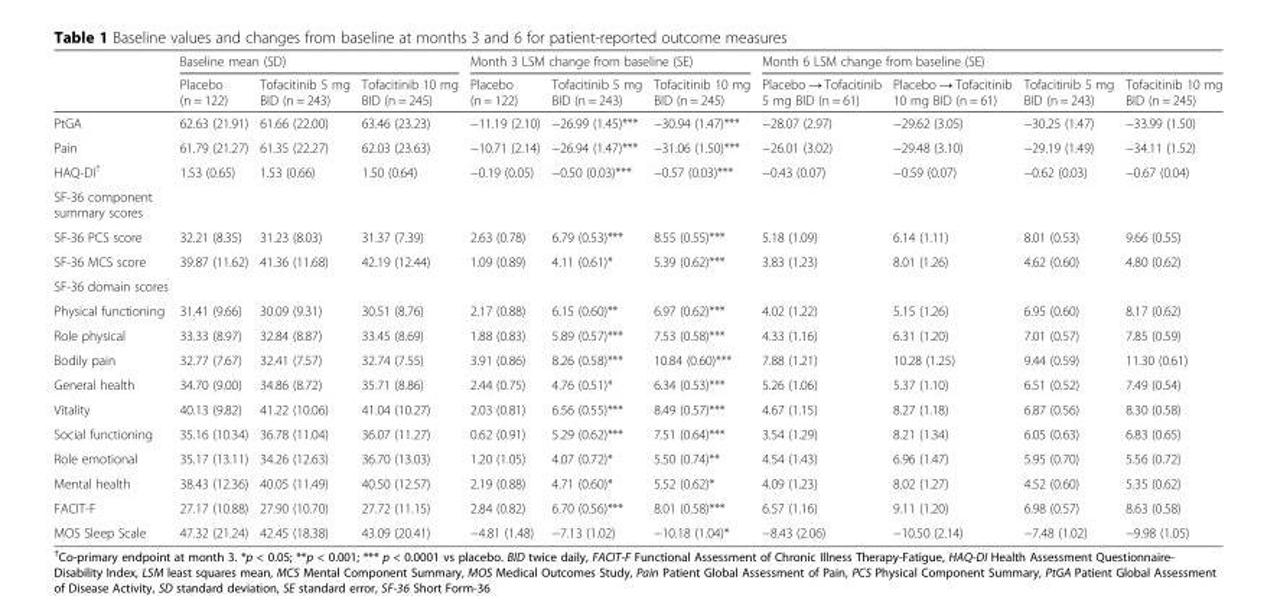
<table><thead><tr><td rowspan="2"></td><td colspan="3">Baseline mean (SD)</td><td colspan="3">Month 3 LSM change from baseline (SE)</td><td colspan="4">Month 6 LSM change from baseline (SE)</td></tr><tr><td>Placebo (n = 122)</td><td>Tofacitinib 5 mg BID (n = 243)</td><td>Tofacitinib 10 mg BID (n = 245)</td><td>Placebo (n = 122)</td><td>Tofacitinib 5 mg BID (n = 243)</td><td>Tofacitinib 10 mg BID (n = 245)</td><td>Placebo → Tofacitinib 5 mg BID (n = 61)</td><td>Placebo → Tofacitinib 10 mg BID (n = 61)</td><td>Tofacitinib 5 mg BID (n = 243)</td><td>Tofacitinib 10 mg BID (n = 245)</td></tr></thead><tbody><tr><td>PtGA</td><td>62.63 (21.91)</td><td>61.66 (22.00)</td><td>63.46 (23.23)</td><td>−11.19 (2.10)</td><td>−26.99 (1.45)***</td><td>−30.94 (1.47)***</td><td>−28.07 (2.97)</td><td>−29.62 (3.05)</td><td>−30.25 (1.47)</td><td>−33.99 (1.50)</td></tr><tr><td>Pain</td><td>61.79 (21.27)</td><td>61.35 (22.27)</td><td>62.03 (23.63)</td><td>−10.71 (2.14)</td><td>−26.94 (1.47)***</td><td>−31.06 (1.50)***</td><td>−26.01 (3.02)</td><td>−29.48 (3.10)</td><td>−29.19 (1.49)</td><td>−34.11 (1.52)</td></tr><tr><td>HAQ-DI<sup>†</sup></td><td>1.53 (0.65)</td><td>1.53 (0.66)</td><td>1.50 (0.64)</td><td>−0.19 (0.05)</td><td>−0.50 (0.03)***</td><td>−0.57 (0.03)***</td><td>−0.43 (0.07)</td><td>−0.59 (0.07)</td><td>−0.62 (0.03)</td><td>−0.67 (0.04)</td></tr><tr><td colspan="11">SF-36 component summary scores</td></tr><tr><td>SF-36 PCS score</td><td>32.21 (8.35)</td><td>31.23 (8.03)</td><td>31.37 (7.39)</td><td>2.63 (0.78)</td><td>6.79 (0.53)***</td><td>8.55 (0.55)***</td><td>5.18 (1.09)</td><td>6.14 (1.11)</td><td>8.01 (0.53)</td><td>9.66 (0.55)</td></tr><tr><td>SF-36 MCS score</td><td>39.87 (11.62)</td><td>41.36 (11.68)</td><td>42.19 (12.44)</td><td>1.09 (0.89)</td><td>4.11 (0.61)*</td><td>5.39 (0.62)***</td><td>3.83 (1.23)</td><td>8.01 (1.26)</td><td>4.62 (0.60)</td><td>4.80 (0.62)</td></tr><tr><td colspan="11">SF-36 domain scores</td></tr><tr><td>Physical functioning</td><td>31.41 (9.66)</td><td>30.09 (9.31)</td><td>30.51 (8.76)</td><td>2.17 (0.88)</td><td>6.15 (0.60)**</td><td>6.97 (0.62)***</td><td>4.02 (1.22)</td><td>5.15 (1.26)</td><td>6.95 (0.60)</td><td>8.17 (0.62)</td></tr><tr><td>Role physical</td><td>33.33 (8.97)</td><td>32.84 (8.87)</td><td>33.45 (8.69)</td><td>1.88 (0.83)</td><td>5.89 (0.57)***</td><td>7.53 (0.58)***</td><td>4.33 (1.16)</td><td>6.31 (1.20)</td><td>7.01 (0.57)</td><td>7.85 (0.59)</td></tr><tr><td>Bodily pain</td><td>32.77 (7.67)</td><td>32.41 (7.57)</td><td>32.74 (7.55)</td><td>3.91 (0.86)</td><td>8.26 (0.58)***</td><td>10.84 (0.60)***</td><td>7.88 (1.21)</td><td>10.28 (1.25)</td><td>9.44 (0.59)</td><td>11.30 (0.61)</td></tr><tr><td>General health</td><td>34.70 (9.00)</td><td>34.86 (8.72)</td><td>35.71 (8.86)</td><td>2.44 (0.75)</td><td>4.76 (0.51)*</td><td>6.34 (0.53)***</td><td>5.26 (1.06)</td><td>5.37 (1.10)</td><td>6.51 (0.52)</td><td>7.49 (0.54)</td></tr><tr><td>Vitality</td><td>40.13 (9.82)</td><td>41.22 (10.06)</td><td>41.04 (10.27)</td><td>2.03 (0.81)</td><td>6.56 (0.55)***</td><td>8.49 (0.57)***</td><td>4.67 (1.15)</td><td>8.27 (1.18)</td><td>6.87 (0.56)</td><td>8.30 (0.58)</td></tr><tr><td>Social functioning</td><td>35.16 (10.34)</td><td>36.78 (11.04)</td><td>36.07 (11.27)</td><td>0.62 (0.91)</td><td>5.29 (0.62)***</td><td>7.51 (0.64)***</td><td>3.54 (1.29)</td><td>8.21 (1.34)</td><td>6.05 (0.63)</td><td>6.83 (0.65)</td></tr><tr><td>Role emotional</td><td>35.17 (13.11)</td><td>34.26 (12.63)</td><td>36.70 (13.03)</td><td>1.20 (1.05)</td><td>4.07 (0.72)*</td><td>5.50 (0.74)**</td><td>4.54 (1.43)</td><td>6.96 (1.47)</td><td>5.95 (0.70)</td><td>5.56 (0.72)</td></tr><tr><td>Mental health</td><td>38.43 (12.36)</td><td>40.05 (11.49)</td><td>40.50 (12.57)</td><td>2.19 (0.88)</td><td>4.71 (0.60)*</td><td>5.52 (0.62)*</td><td>4.09 (1.23)</td><td>8.02 (1.27)</td><td>4.52 (0.60)</td><td>5.35 (0.62)</td></tr><tr><td>FACIT-F</td><td>27.17 (10.88)</td><td>27.90 (10.70)</td><td>27.72 (11.15)</td><td>2.84 (0.82)</td><td>6.70 (0.56)***</td><td>8.01 (0.58)***</td><td>6.57 (1.16)</td><td>9.11 (1.20)</td><td>6.98 (0.57)</td><td>8.63 (0.58)</td></tr><tr><td>MOS Sleep Scale</td><td>47.32 (21.24)</td><td>42.45 (18.38)</td><td>43.09 (20.41)</td><td>−4.81 (1.48)</td><td>−7.13 (1.02)</td><td>−10.18 (1.04)*</td><td>−8.43 (2.06)</td><td>−10.50 (2.14)</td><td>−7.48 (1.02)</td><td>−9.98 (1.05)</td></tr></tbody></table>